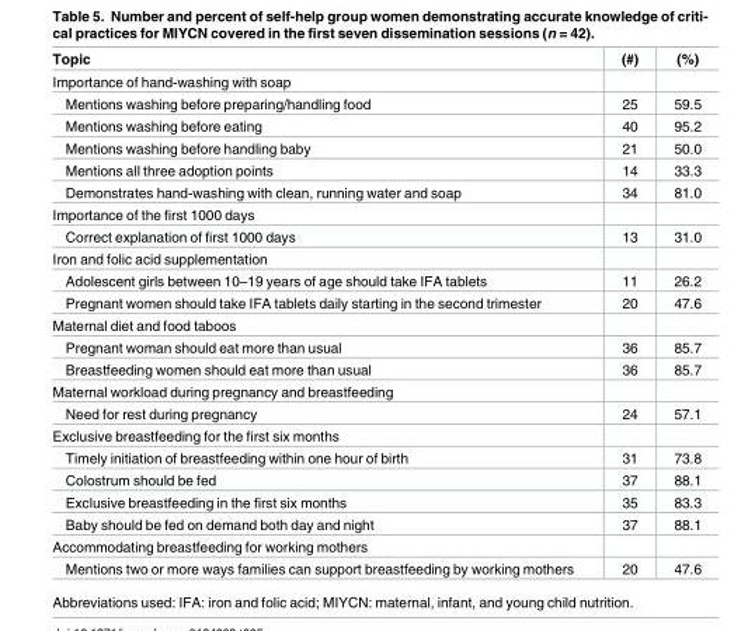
<table><thead><tr><td>Topic</td><td>(#)</td><td>(%)</td></tr></thead><tbody><tr><td colspan="3">Importance of hand-washing with soap</td></tr><tr><td>Mentions washing before preparing/handling food</td><td>25</td><td>59.5</td></tr><tr><td>Mentions washing before eating</td><td>40</td><td>95.2</td></tr><tr><td>Mentions washing before handling baby</td><td>21</td><td>50.0</td></tr><tr><td>Mentions all three adoption points</td><td>14</td><td>33.3</td></tr><tr><td>Demonstrates hand-washing with clean, running water and soap</td><td>34</td><td>81.0</td></tr><tr><td colspan="3">Importance of the first 1000 days</td></tr><tr><td>Correct explanation of first 1000 days</td><td>13</td><td>31.0</td></tr><tr><td colspan="3">Iron and folic acid supplementation</td></tr><tr><td>Adolescent girls between 10–19 years of age should take IFA tablets</td><td>11</td><td>26.2</td></tr><tr><td>Pregnant women should take IFA tablets daily starting in the second trimester</td><td>20</td><td>47.6</td></tr><tr><td colspan="3">Maternal diet and food taboos</td></tr><tr><td>Pregnant woman should eat more than usual</td><td>36</td><td>85.7</td></tr><tr><td>Breastfeeding women should eat more than usual</td><td>36</td><td>85.7</td></tr><tr><td colspan="3">Maternal workload during pregnancy and breastfeeding</td></tr><tr><td>Need for rest during pregnancy</td><td>24</td><td>57.1</td></tr><tr><td colspan="3">Exclusive breastfeeding for the first six months</td></tr><tr><td>Timely initiation of breastfeeding within one hour of birth</td><td>31</td><td>73.8</td></tr><tr><td>Colostrum should be fed</td><td>37</td><td>88.1</td></tr><tr><td>Exclusive breastfeeding in the first six months</td><td>35</td><td>83.3</td></tr><tr><td>Baby should be fed on demand both day and night</td><td>37</td><td>88.1</td></tr><tr><td colspan="3">Accommodating breastfeeding for working mothers</td></tr><tr><td>Mentions two or more ways families can support breastfeeding by working mothers</td><td>20</td><td>47.6</td></tr></tbody></table>